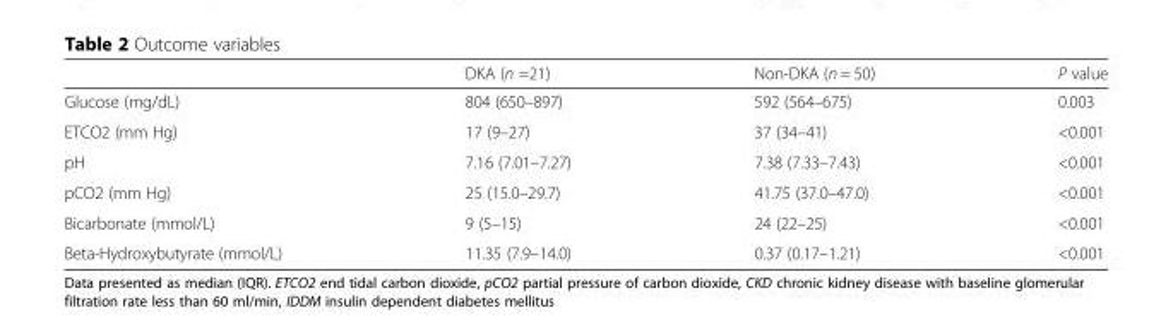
<table><thead><tr><td></td><td>DKA (n =21)</td><td>Non-DKA (n = 50)</td><td>P value</td></tr></thead><tbody><tr><td>Glucose (mg/dL)</td><td>804 (650–897)</td><td>592 (564–675)</td><td>0.003</td></tr><tr><td>ETCO2 (mm Hg)</td><td>17 (9–27)</td><td>37 (34–41)</td><td>&lt;0.001</td></tr><tr><td>pH</td><td>7.16 (7.01–7.27)</td><td>7.38 (7.33–7.43)</td><td>&lt;0.001</td></tr><tr><td>pCO2 (mm Hg)</td><td>25 (15.0–29.7)</td><td>41.75 (37.0–47.0)</td><td>&lt;0.001</td></tr><tr><td>Bicarbonate (mmol/L)</td><td>9 (5–15)</td><td>24 (22–25)</td><td>&lt;0.001</td></tr><tr><td>Beta-Hydroxybutyrate (mmol/L)</td><td>11.35 (7.9–14.0)</td><td>0.37 (0.17–1.21)</td><td>&lt;0.001</td></tr></tbody></table>